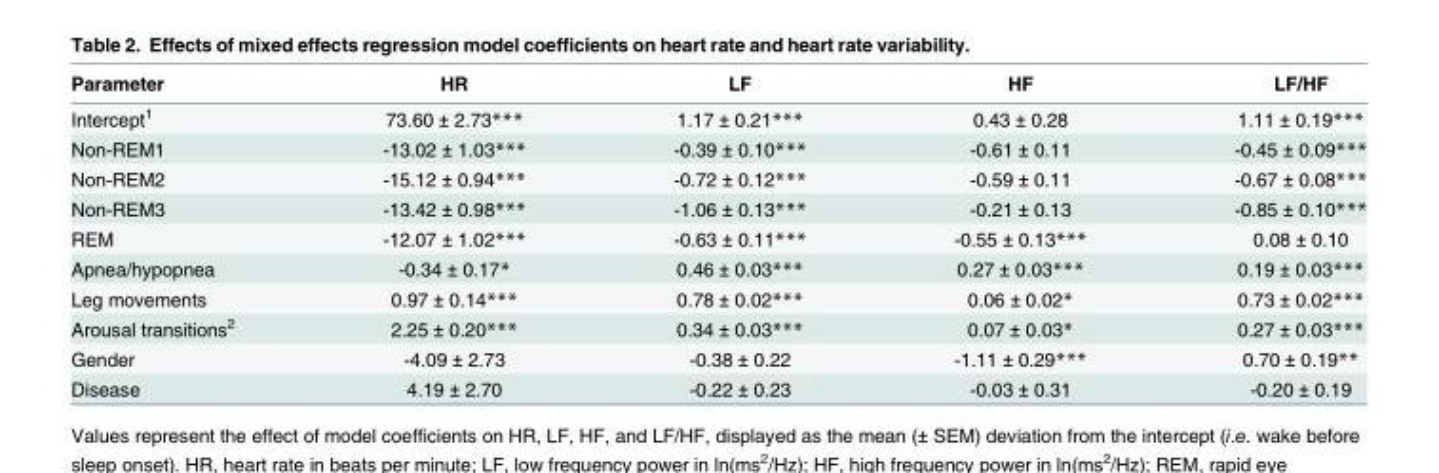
<table><thead><tr><td>Parameter</td><td>HR</td><td>LF</td><td>HF</td><td>LF/HF</td></tr></thead><tbody><tr><td>Intercept<sup>1</sup></td><td>73.60 ± 2.73***</td><td>1.17 ± 0.21***</td><td>0.43 ± 0.28</td><td>1.11 ± 0.19***</td></tr><tr><td>Non-REM1</td><td>-13.02 ± 1.03***</td><td>-0.39 ± 0.10***</td><td>-0.61 ± 0.11</td><td>-0.45 ± 0.09***</td></tr><tr><td>Non-REM2</td><td>-15.12 ± 0.94***</td><td>-0.72 ± 0.12***</td><td>-0.59 ± 0.11</td><td>-0.67 ± 0.08***</td></tr><tr><td>Non-REM3</td><td>-13.42 ± 0.98***</td><td>-1.06 ± 0.13***</td><td>-0.21 ± 0.13</td><td>-0.85 ± 0.10***</td></tr><tr><td>REM</td><td>-12.07 ± 1.02***</td><td>-0.63 ± 0.11***</td><td>-0.55 ± 0.13***</td><td>0.08 ± 0.10</td></tr><tr><td>Apnea/hypopnea</td><td>-0.34 ± 0.17*</td><td>0.46 ± 0.03***</td><td>0.27 ± 0.03***</td><td>0.19 ± 0.03***</td></tr><tr><td>Leg movements</td><td>0.97 ± 0.14***</td><td>0.78 ± 0.02***</td><td>0.06 ± 0.02*</td><td>0.73 ± 0.02***</td></tr><tr><td>Arousal transitions<sup>2</sup></td><td>2.25 ± 0.20***</td><td>0.34 ± 0.03***</td><td>0.07 ± 0.03*</td><td>0.27 ± 0.03***</td></tr><tr><td>Gender</td><td>-4.09 ± 2.73</td><td>-0.38 ± 0.22</td><td>-1.11 ± 0.29***</td><td>0.70 ± 0.19**</td></tr><tr><td>Disease</td><td>4.19 ± 2.70</td><td>-0.22 ± 0.23</td><td>-0.03 ± 0.31</td><td>-0.20 ± 0.19</td></tr></tbody></table>